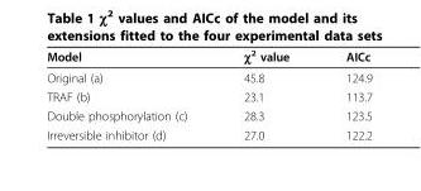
<table><thead><tr><td>Model</td><td>χ<sup>2</sup> value</td><td>AICc</td></tr></thead><tbody><tr><td>Original (a)</td><td>45.8</td><td>124.9</td></tr><tr><td>TRAF (b)</td><td>23.1</td><td>113.7</td></tr><tr><td>Double phosphorylation (c)</td><td>28.3</td><td>123.5</td></tr><tr><td>Irreversible inhibitor (d)</td><td>27.0</td><td>122.2</td></tr></tbody></table>